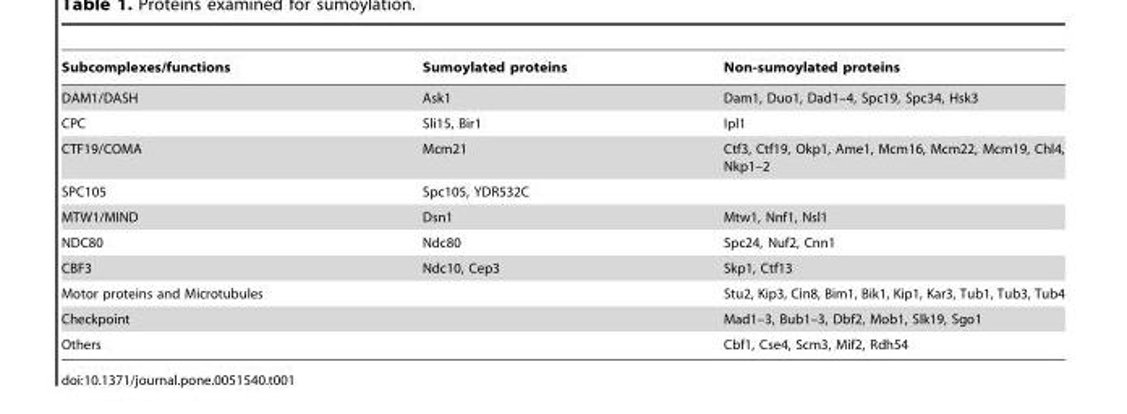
<table><thead><tr><td>Subcomplexes/functions</td><td>Sumoylated proteins</td><td>Non-sumoylated proteins</td></tr></thead><tbody><tr><td>DAM1/DASH</td><td>Ask1</td><td>Dam1, Duo1, Dad1–4, Spc19, Spc34, Hsk3</td></tr><tr><td>CPC</td><td>Sli15, Bir1</td><td>Ipl1</td></tr><tr><td>CTF19/COMA</td><td>Mcm21</td><td>Ctf3, Ctf19, Okp1, Ame1, Mcm16, Mcm22, Mcm19, Chl4, Nkp1–2</td></tr><tr><td>SPC105</td><td>Spc105, YDR532C</td><td></td></tr><tr><td>MTW1/MIND</td><td>Dsn1</td><td>Mtw1, Nnf1, Nsl1</td></tr><tr><td>NDC80</td><td>Ndc80</td><td>Spc24, Nuf2, Cnn1</td></tr><tr><td>CBF3</td><td>Ndc10, Cep3</td><td>Skp1, Ctf13</td></tr><tr><td>Motor proteins and Microtubules</td><td></td><td>Stu2, Kip3, Cin8, Bim1, Bik1, Kip1, Kar3, Tub1, Tub3, Tub4</td></tr><tr><td>Checkpoint</td><td></td><td>Mad1–3, Bub1–3, Dbf2, Mob1, Slk19, Sgo1</td></tr><tr><td>Others</td><td></td><td>Cbf1, Cse4, Scm3, Mif2, Rdh54</td></tr></tbody></table>